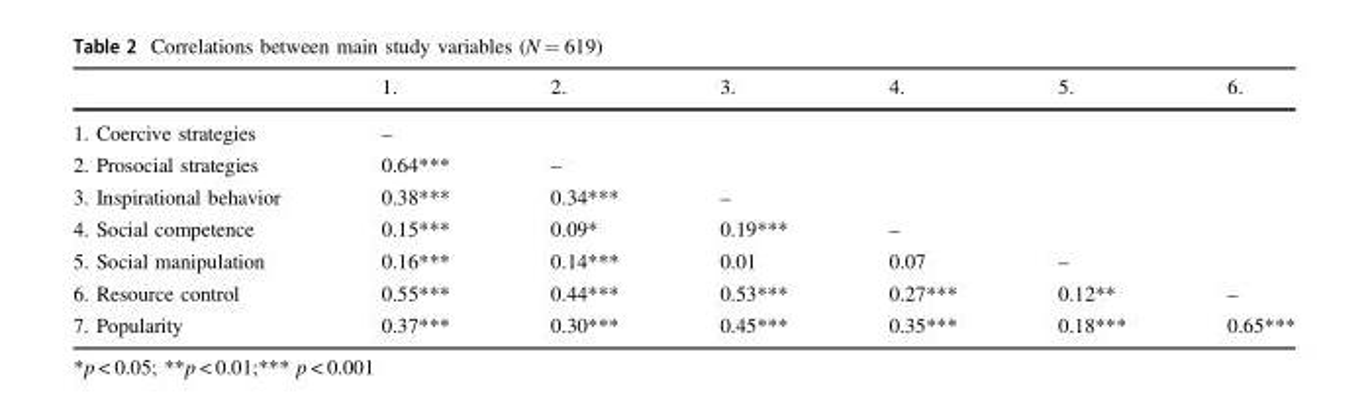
<table><thead><tr><td></td><td>1.</td><td>2.</td><td>3.</td><td>4.</td><td>5.</td><td>6.</td></tr></thead><tbody><tr><td>1. Coercive strategies</td><td>–</td><td></td><td></td><td></td><td></td><td></td></tr><tr><td>2. Prosocial strategies</td><td>0.64***</td><td>–</td><td></td><td></td><td></td><td></td></tr><tr><td>3. Inspirational behavior</td><td>0.38***</td><td>0.34***</td><td>–</td><td></td><td></td><td></td></tr><tr><td>4. Social competence</td><td>0.15***</td><td>0.09*</td><td>0.19***</td><td>–</td><td></td><td></td></tr><tr><td>5. Social manipulation</td><td>0.16***</td><td>0.14***</td><td>0.01</td><td>0.07</td><td>–</td><td></td></tr><tr><td>6. Resource control</td><td>0.55***</td><td>0.44***</td><td>0.53***</td><td>0.27***</td><td>0.12**</td><td>–</td></tr><tr><td>7. Popularity</td><td>0.37***</td><td>0.30***</td><td>0.45***</td><td>0.35***</td><td>0.18***</td><td>0.65***</td></tr></tbody></table>